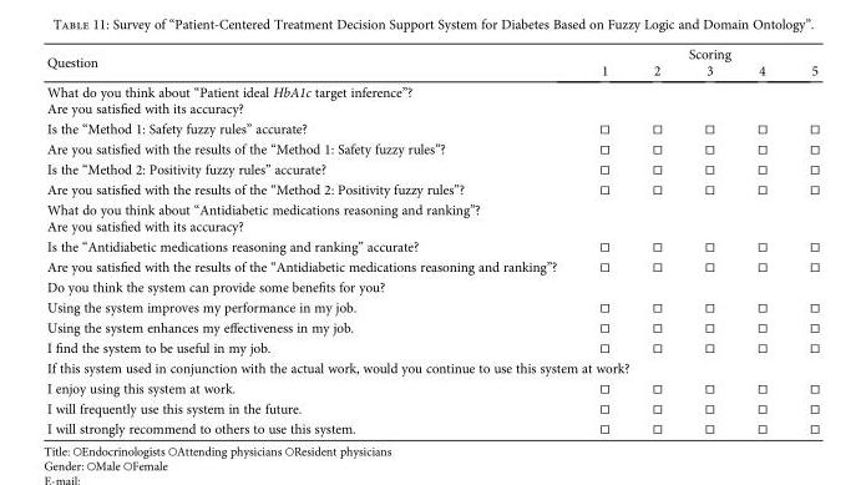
<table><thead><tr><td rowspan="2">Question</td><td colspan="5">Scoring</td></tr><tr><td>1</td><td>2</td><td>3</td><td>4</td><td>5</td></tr></thead><tbody><tr><td colspan="6">What do you think about “Patient ideal HbA1c target inference”? Are you satisfied with its accuracy?</td></tr><tr><td>Is the “Method 1: Safety fuzzy rules” accurate?</td><td>□</td><td>□</td><td>□</td><td>□</td><td>□</td></tr><tr><td>Are you satisfied with the results of the “Method 1: Safety fuzzy rules”?</td><td>□</td><td>□</td><td>□</td><td>□</td><td>□</td></tr><tr><td>Is the “Method 2: Positivity fuzzy rules” accurate?</td><td>□</td><td>□</td><td>□</td><td>□</td><td>□</td></tr><tr><td>Are you satisfied with the results of the “Method 2: Positivity fuzzy rules”?</td><td>□</td><td>□</td><td>□</td><td>□</td><td>□</td></tr><tr><td colspan="6">What do you think about “Antidiabetic medications reasoning and ranking”? Are you satisfied with its accuracy?</td></tr><tr><td>Is the “Antidiabetic medications reasoning and ranking” accurate?</td><td>□</td><td>□</td><td>□</td><td>□</td><td>□</td></tr><tr><td>Are you satisfied with the results of the “Antidiabetic medications reasoning and ranking”?</td><td>□</td><td>□</td><td>□</td><td>□</td><td>□</td></tr><tr><td colspan="6">Do you think the system can provide some benefits for you?</td></tr><tr><td>Using the system improves my performance in my job.</td><td>□</td><td>□</td><td>□</td><td>□</td><td>□</td></tr><tr><td>Using the system enhances my effectiveness in my job.</td><td>□</td><td>□</td><td>□</td><td>□</td><td>□</td></tr><tr><td>I find the system to be useful in my job.</td><td>□</td><td>□</td><td>□</td><td>□</td><td>□</td></tr><tr><td colspan="6">If this system used in conjunction with the actual work, would you continue to use this system at work?</td></tr><tr><td>I enjoy using this system at work.</td><td>□</td><td>□</td><td>□</td><td>□</td><td>□</td></tr><tr><td>I will frequently use this system in the future.</td><td>□</td><td>□</td><td>□</td><td>□</td><td>□</td></tr><tr><td>I will strongly recommend to others to use this system.</td><td>□</td><td>□</td><td>□</td><td>□</td><td>□</td></tr></tbody></table>